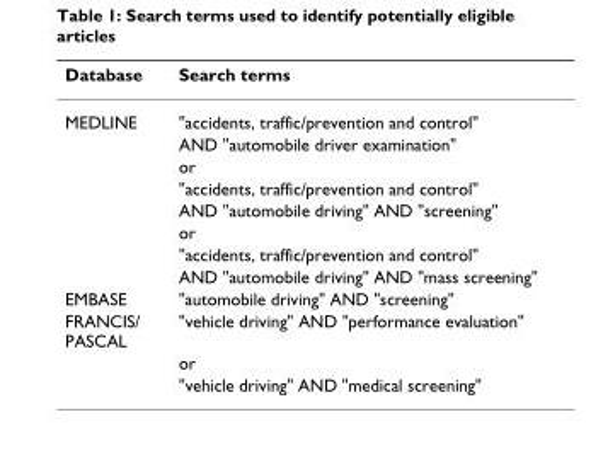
<table><thead><tr><td>Database</td><td>Search terms</td></tr></thead><tbody><tr><td rowspan="8">MEDLINE</td><td>&quot;accidents, traffic/prevention and control&quot;</td></tr><tr><td>AND &quot;automobile driver examination&quot;</td></tr><tr><td>or</td></tr><tr><td>&quot;accidents, traffic/prevention and control&quot;</td></tr><tr><td>AND &quot;automobile driving&quot; AND &quot;screening&quot;</td></tr><tr><td>or</td></tr><tr><td>&quot;accidents, traffic/prevention and control&quot;</td></tr><tr><td>AND &quot;automobile driving&quot; AND &quot;mass screening&quot;</td></tr><tr><td>EMBASE</td><td>&quot;automobile driving&quot; AND &quot;screening&quot;</td></tr><tr><td rowspan="3">FRANCIS/ PASCAL</td><td>&quot;vehicle driving&quot; AND &quot;performance evaluation&quot;</td></tr><tr><td>or</td></tr><tr><td>&quot;vehicle driving&quot; AND &quot;medical screening&quot;</td></tr></tbody></table>